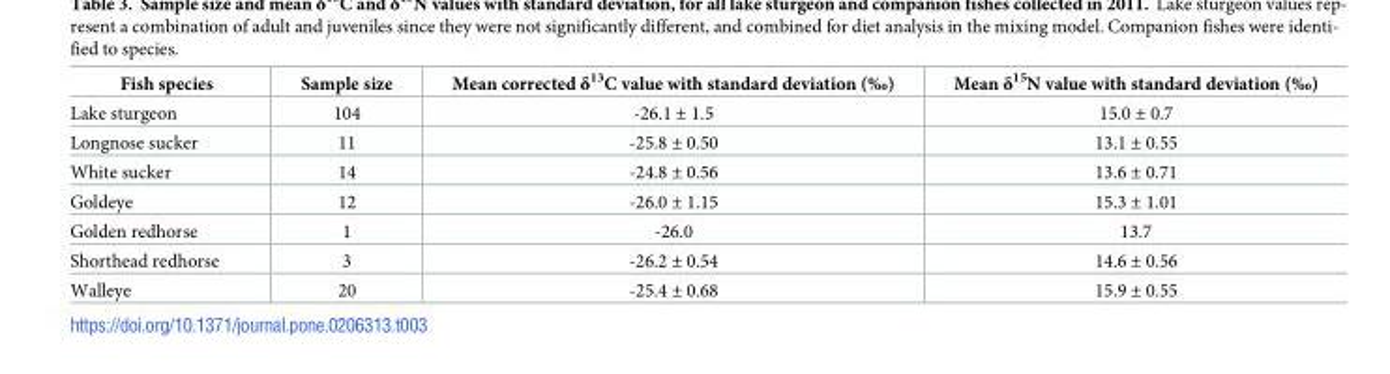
<table><thead><tr><td>Fish species</td><td>Sample size</td><td>Mean corrected δ<sup>13</sup>C value with standard deviation (‰)</td><td>Mean δ<sup>15</sup>N value with standard deviation (‰)</td></tr></thead><tbody><tr><td>Lake sturgeon</td><td>104</td><td>-26.1 ± 1.5</td><td>15.0 ± 0.7</td></tr><tr><td>Longnose sucker</td><td>11</td><td>-25.8 ± 0.50</td><td>13.1 ± 0.55</td></tr><tr><td>White sucker</td><td>14</td><td>-24.8 ± 0.56</td><td>13.6 ± 0.71</td></tr><tr><td>Goldeye</td><td>12</td><td>-26.0 ± 1.15</td><td>15.3 ± 1.01</td></tr><tr><td>Golden redhorse</td><td>1</td><td>-26.0</td><td>13.7</td></tr><tr><td>Shorthead redhorse</td><td>3</td><td>-26.2 ± 0.54</td><td>14.6 ± 0.56</td></tr><tr><td>Walleye</td><td>20</td><td>-25.4 ± 0.68</td><td>15.9 ± 0.55</td></tr></tbody></table>